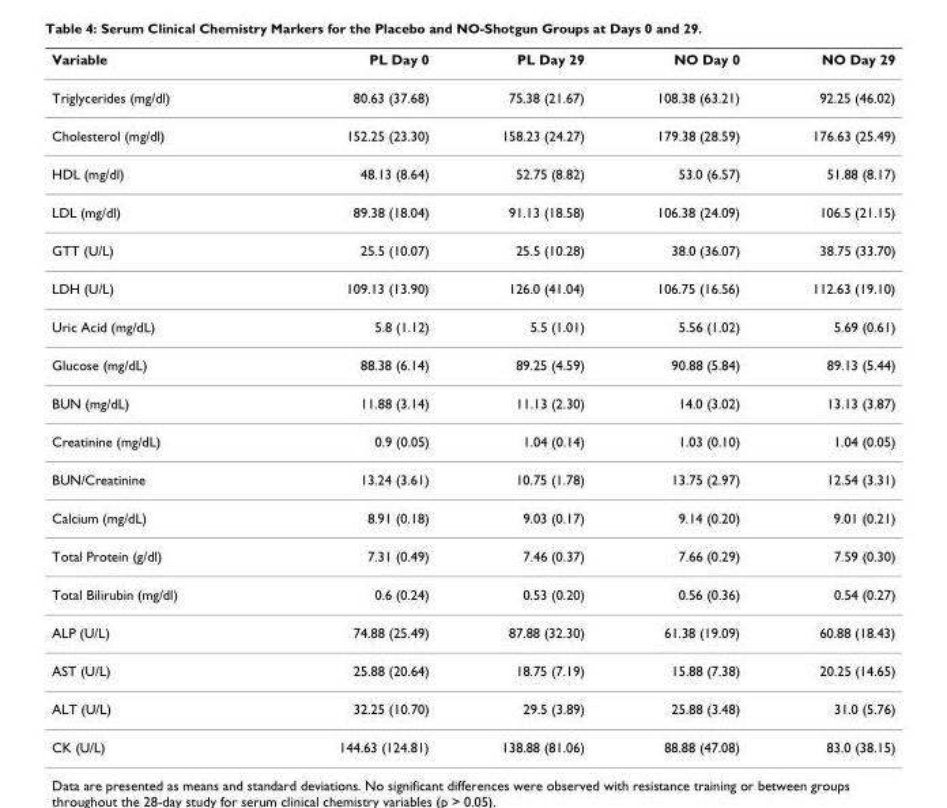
<table><thead><tr><td>Variable</td><td>PL Day 0</td><td>PL Day 29</td><td>NO Day 0</td><td>NO Day 29</td></tr></thead><tbody><tr><td>Triglycerides (mg/dl)</td><td>80.63 (37.68)</td><td>75.38 (21.67)</td><td>108.38 (63.21)</td><td>92.25 (46.02)</td></tr><tr><td>Cholesterol (mg/dl)</td><td>152.25 (23.30)</td><td>158.23 (24.27)</td><td>179.38 (28.59)</td><td>176.63 (25.49)</td></tr><tr><td>HDL (mg/dl)</td><td>48.13 (8.64)</td><td>52.75 (8.82)</td><td>53.0 (6.57)</td><td>51.88 (8.17)</td></tr><tr><td>LDL (mg/dl)</td><td>89.38 (18.04)</td><td>91.13 (18.58)</td><td>106.38 (24.09)</td><td>106.5 (21.15)</td></tr><tr><td>GTT (U/L)</td><td>25.5 (10.07)</td><td>25.5 (10.28)</td><td>38.0 (36.07)</td><td>38.75 (33.70)</td></tr><tr><td>LDH (U/L)</td><td>109.13 (13.90)</td><td>126.0 (41.04)</td><td>106.75 (16.56)</td><td>112.63 (19.10)</td></tr><tr><td>Uric Acid (mg/dL)</td><td>5.8 (1.12)</td><td>5.5 (1.01)</td><td>5.56 (1.02)</td><td>5.69 (0.61)</td></tr><tr><td>Glucose (mg/dL)</td><td>88.38 (6.14)</td><td>89.25 (4.59)</td><td>90.88 (5.84)</td><td>89.13 (5.44)</td></tr><tr><td>BUN (mg/dL)</td><td>11.88 (3.14)</td><td>11.13 (2.30)</td><td>14.0 (3.02)</td><td>13.13 (3.87)</td></tr><tr><td>Creatinine (mg/dL)</td><td>0.9 (0.05)</td><td>1.04 (0.14)</td><td>1.03 (0.10)</td><td>1.04 (0.05)</td></tr><tr><td>BUN/Creatinine</td><td>13.24 (3.61)</td><td>10.75 (1.78)</td><td>13.75 (2.97)</td><td>12.54 (3.31)</td></tr><tr><td>Calcium (mg/dL)</td><td>8.91 (0.18)</td><td>9.03 (0.17)</td><td>9.14 (0.20)</td><td>9.01 (0.21)</td></tr><tr><td>Total Protein (g/dl)</td><td>7.31 (0.49)</td><td>7.46 (0.37)</td><td>7.66 (0.29)</td><td>7.59 (0.30)</td></tr><tr><td>Total Bilirubin (mg/dl)</td><td>0.6 (0.24)</td><td>0.53 (0.20)</td><td>0.56 (0.36)</td><td>0.54 (0.27)</td></tr><tr><td>ALP (U/L)</td><td>74.88 (25.49)</td><td>87.88 (32.30)</td><td>61.38 (19.09)</td><td>60.88 (18.43)</td></tr><tr><td>AST (U/L)</td><td>25.88 (20.64)</td><td>18.75 (7.19)</td><td>15.88 (7.38)</td><td>20.25 (14.65)</td></tr><tr><td>ALT (U/L)</td><td>32.25 (10.70)</td><td>29.5 (3.89)</td><td>25.88 (3.48)</td><td>31.0 (5.76)</td></tr><tr><td>CK (U/L)</td><td>144.63 (124.81)</td><td>138.88 (81.06)</td><td>88.88 (47.08)</td><td>83.0 (38.15)</td></tr></tbody></table>